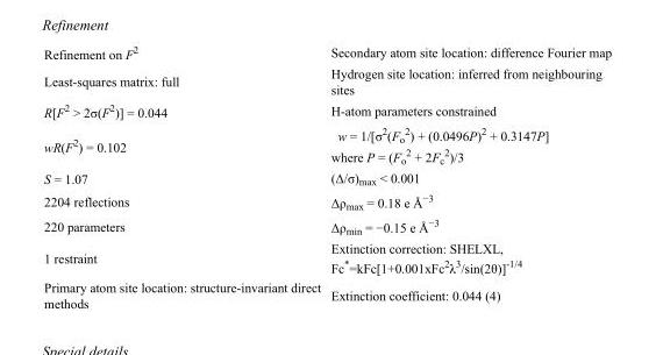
<table><tbody><tr><td>Refinement on F<sup>2</sup></td><td>Secondary atom site location: difference Fourier map</td></tr><tr><td>Least-squares matrix: full</td><td>Hydrogen site location: inferred from neighbouring sites</td></tr><tr><td>R[F<sup>2</sup> &gt; 2σ(F<sup>2</sup>)] = 0.044</td><td>H-atom parameters constrained</td></tr><tr><td>wR(F<sup>2</sup>) = 0.102</td><td>w = 1/[σ<sup>2</sup>(F<sub>o</sub> <sup>2</sup>) + (0.0496P)<sup>2</sup> + 0.3147P] where P = (F<sub>o</sub> <sup>2</sup> + 2F<sub>c</sub> <sup>2</sup>)/3</td></tr><tr><td>S = 1.07</td><td>(Δ/σ)<sub>max</sub> &lt; 0.001</td></tr><tr><td>2204 reflections</td><td>Δρ<sub>max</sub> = 0.18 e Å<sup>−3</sup></td></tr><tr><td>220 parameters</td><td>Δρ<sub>min</sub> = −0.15 e Å<sup>−3</sup></td></tr><tr><td>1 restraint</td><td>Extinction correction: SHELXL, Fc*=kFc[1+0.001xFc<sup>2</sup>λ<sup>3</sup>/sin(2θ)]<sup>-1/4</sup></td></tr><tr><td>Primary atom site location: structure-invariant direct methods</td><td>Extinction coefficient: 0.044 (4)</td></tr></tbody></table>